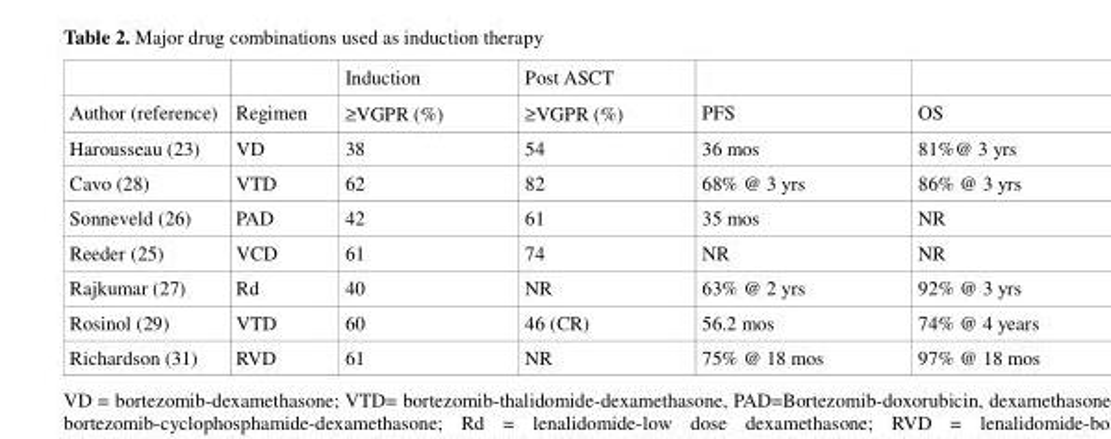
<table><thead><tr><td rowspan="2">Author (reference)</td><td rowspan="2">Regimen</td><td rowspan="2">Induction ≥VGPR (%)</td><td rowspan="2">Post ASCT ≥VGPR (%)</td><td rowspan="2">PFS</td><td rowspan="2">OS</td></tr><tr></tr></thead><tbody><tr><td>Harousseau (23)</td><td>VD</td><td>38</td><td>54</td><td>36 mos</td><td>81%@ 3 yrs</td></tr><tr><td>Cavo (28)</td><td>VTD</td><td>62</td><td>82</td><td>68% @ 3 yrs</td><td>86% @ 3 yrs</td></tr><tr><td>Sonneveld (26)</td><td>PAD</td><td>42</td><td>61</td><td>35 mos</td><td>NR</td></tr><tr><td>Reeder (25)</td><td>VCD</td><td>61</td><td>74</td><td>NR</td><td>NR</td></tr><tr><td>Rajkumar (27)</td><td>Rd</td><td>40</td><td>NR</td><td>63% @ 2 yrs</td><td>92% @ 3 yrs</td></tr><tr><td>Rosinol (29)</td><td>VTD</td><td>60</td><td>46 (CR)</td><td>56.2 mos</td><td>74% @ 4 years</td></tr><tr><td>Richardson (31)</td><td>RVD</td><td>61</td><td>NR</td><td>75% @ 18 mos</td><td>97% @ 18 mos</td></tr></tbody></table>